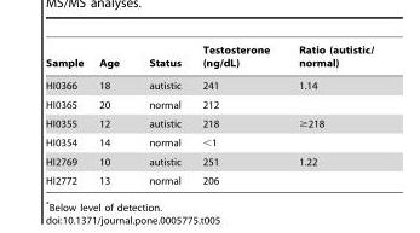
<table><thead><tr><td>Sample</td><td>Age</td><td>Status</td><td>Testosterone (ng/dL)</td><td>Ratio (autistic/ normal)</td></tr></thead><tbody><tr><td>HI0366</td><td>18</td><td>autistic</td><td>241</td><td>1.14</td></tr><tr><td>HI0365</td><td>20</td><td>normal</td><td>212</td><td></td></tr><tr><td>HI0355</td><td>12</td><td>autistic</td><td>218</td><td>≥218</td></tr><tr><td>HI0354</td><td>14</td><td>normal</td><td>&lt;1</td><td></td></tr><tr><td>HI2769</td><td>10</td><td>autistic</td><td>251</td><td>1.22</td></tr><tr><td>HI2772</td><td>13</td><td>normal</td><td>206</td><td></td></tr></tbody></table>